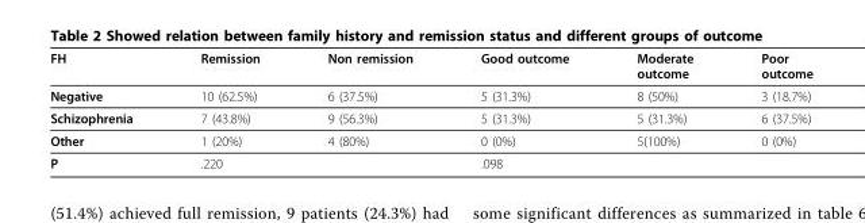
<table><thead><tr><td>FH</td><td>Remission</td><td>Non remission</td><td>Good outcome</td><td>Moderate outcome</td><td>Poor outcome</td></tr></thead><tbody><tr><td>Negative</td><td>10 (62.5%)</td><td>6 (37.5%)</td><td>5 (31.3%)</td><td>8 (50%)</td><td>3 (18.7%)</td></tr><tr><td>Schizophrenia</td><td>7 (43.8%)</td><td>9 (56.3%)</td><td>5 (31.3%)</td><td>5 (31.3%)</td><td>6 (37.5%)</td></tr><tr><td>Other</td><td>1 (20%)</td><td>4 (80%)</td><td>0 (0%)</td><td>5(100%)</td><td>0 (0%)</td></tr><tr><td>P</td><td colspan="2">.220</td><td colspan="3">.098</td></tr></tbody></table>